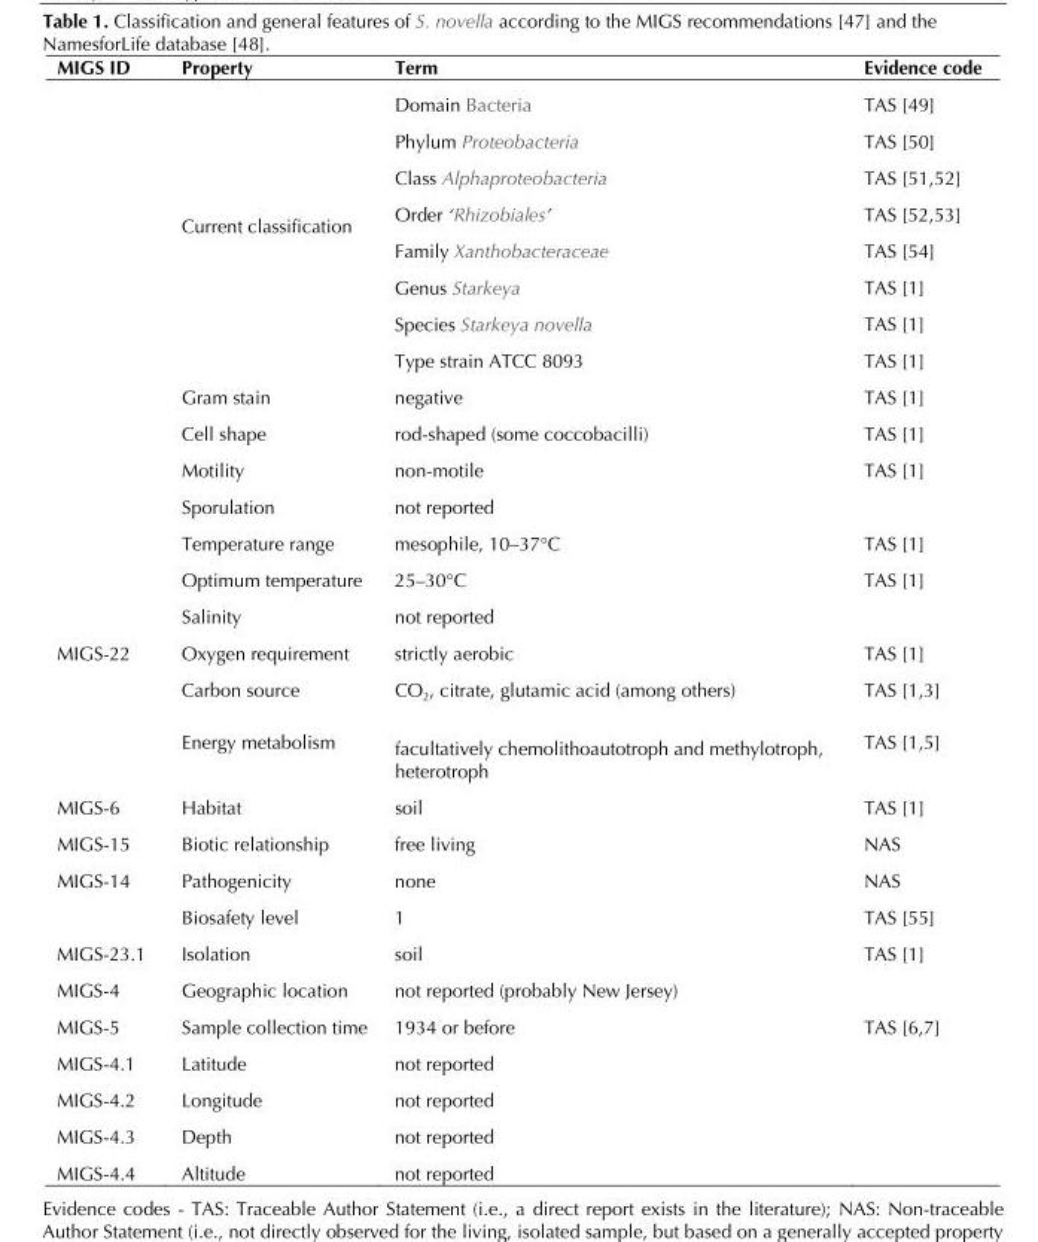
<table><thead><tr><td>MIGS ID</td><td>Property</td><td>Term</td><td>Evidence code</td></tr></thead><tbody><tr><td rowspan="8"></td><td rowspan="8">Current classification</td><td>Domain Bacteria</td><td>TAS [49]</td></tr><tr><td>Phylum Proteobacteria</td><td>TAS [50]</td></tr><tr><td>Class Alphaproteobacteria</td><td>TAS [51,52]</td></tr><tr><td>Order ‘Rhizobiales’</td><td>TAS [52,53]</td></tr><tr><td>Family Xanthobacteraceae</td><td>TAS [54]</td></tr><tr><td>Genus Starkeya</td><td>TAS [1]</td></tr><tr><td>Species Starkeya novella</td><td>TAS [1]</td></tr><tr><td>Type strain ATCC 8093</td><td>TAS [1]</td></tr><tr><td></td><td>Gram stain</td><td>negative</td><td>TAS [1]</td></tr><tr><td></td><td>Cell shape</td><td>rod-shaped (some coccobacilli)</td><td>TAS [1]</td></tr><tr><td></td><td>Motility</td><td>non-motile</td><td>TAS [1]</td></tr><tr><td></td><td>Sporulation</td><td>not reported</td><td></td></tr><tr><td></td><td>Temperature range</td><td>mesophile, 10–37°C</td><td>TAS [1]</td></tr><tr><td></td><td>Optimum temperature</td><td>25–30°C</td><td>TAS [1]</td></tr><tr><td></td><td>Salinity</td><td>not reported</td><td></td></tr><tr><td rowspan="3">MIGS-22</td><td>Oxygen requirement</td><td>strictly aerobic</td><td>TAS [1]</td></tr><tr><td>Carbon source</td><td>CO<sub>2</sub>, citrate, glutamic acid (among others)</td><td>TAS [1,3]</td></tr><tr><td>Energy metabolism</td><td>facultatively chemolithoautotroph and methylotroph, heterotroph</td><td>TAS [1,5]</td></tr><tr><td>MIGS-6</td><td>Habitat</td><td>soil</td><td>TAS [1]</td></tr><tr><td>MIGS-15</td><td>Biotic relationship</td><td>free living</td><td>NAS</td></tr><tr><td rowspan="2">MIGS-14</td><td>Pathogenicity</td><td>none</td><td>NAS</td></tr><tr><td>Biosafety level</td><td>1</td><td>TAS [55]</td></tr><tr><td>MIGS-23.1</td><td>Isolation</td><td>soil</td><td>TAS [1]</td></tr><tr><td>MIGS-4</td><td>Geographic location</td><td>not reported (probably New Jersey)</td><td></td></tr><tr><td>MIGS-5</td><td>Sample collection time</td><td>1934 or before</td><td>TAS [6,7]</td></tr><tr><td>MIGS-4.1</td><td>Latitude</td><td>not reported</td><td></td></tr><tr><td>MIGS-4.2</td><td>Longitude</td><td>not reported</td><td></td></tr><tr><td>MIGS-4.3</td><td>Depth</td><td>not reported</td><td></td></tr><tr><td>MIGS-4.4</td><td>Altitude</td><td>not reported</td><td></td></tr></tbody></table>